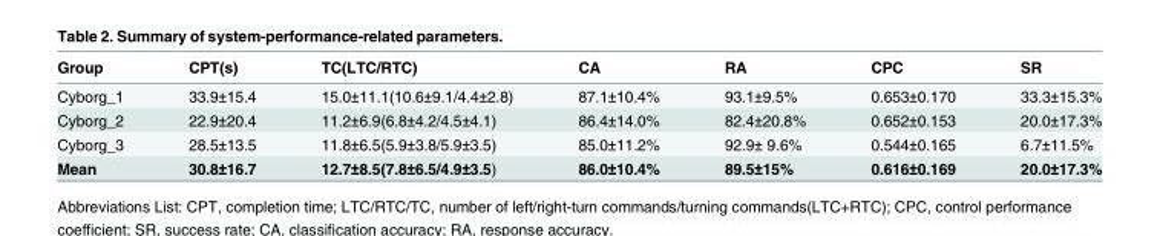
<table><thead><tr><td>Group</td><td>CPT(s)</td><td>TC(LTC/RTC)</td><td>CA</td><td>RA</td><td>CPC</td><td>SR</td></tr></thead><tbody><tr><td>Cyborg_1</td><td>33.9±15.4</td><td>15.0±11.1(10.6±9.1/4.4±2.8)</td><td>87.1±10.4%</td><td>93.1±9.5%</td><td>0.653±0.170</td><td>33.3±15.3%</td></tr><tr><td>Cyborg_2</td><td>22.9±20.4</td><td>11.2±6.9(6.8±4.2/4.5±4.1)</td><td>86.4±14.0%</td><td>82.4±20.8%</td><td>0.652±0.153</td><td>20.0±17.3%</td></tr><tr><td>Cyborg_3</td><td>28.5±13.5</td><td>11.8±6.5(5.9±3.8/5.9±3.5)</td><td>85.0±11.2%</td><td>92.9± 9.6%</td><td>0.544±0.165</td><td>6.7±11.5%</td></tr><tr><td>Mean</td><td>30.8±16.7</td><td>12.7±8.5(7.8±6.5/4.9±3.5)</td><td>86.0±10.4%</td><td>89.5±15%</td><td>0.616±0.169</td><td>20.0±17.3%</td></tr></tbody></table>